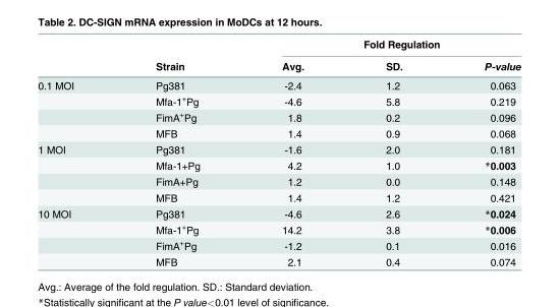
<table><thead><tr><td rowspan="2"></td><td rowspan="2">Strain</td><td colspan="3">Fold Regulation</td></tr><tr><td>Avg.</td><td>SD.</td><td>P-value</td></tr></thead><tbody><tr><td rowspan="4">0.1 MOI</td><td>Pg381</td><td>-2.4</td><td>1.2</td><td>0.063</td></tr><tr><td>Mfa-1<sup>+</sup>Pg</td><td>-4.6</td><td>5.8</td><td>0.219</td></tr><tr><td>FimA<sup>+</sup>Pg</td><td>1.8</td><td>0.2</td><td>0.096</td></tr><tr><td>MFB</td><td>1.4</td><td>0.9</td><td>0.068</td></tr><tr><td rowspan="4">1 MOI</td><td>Pg381</td><td>-1.6</td><td>2.0</td><td>0.181</td></tr><tr><td>Mfa-1+Pg</td><td>4.2</td><td>1.0</td><td>*0.003</td></tr><tr><td>FimA+Pg</td><td>1.2</td><td>0.0</td><td>0.148</td></tr><tr><td>MFB</td><td>1.4</td><td>1.2</td><td>0.421</td></tr><tr><td rowspan="4">10 MOI</td><td>Pg381</td><td>-4.6</td><td>2.6</td><td>*0.024</td></tr><tr><td>Mfa-1<sup>+</sup>Pg</td><td>14.2</td><td>3.8</td><td>*0.006</td></tr><tr><td>FimA<sup>+</sup>Pg</td><td>-1.2</td><td>0.1</td><td>0.016</td></tr><tr><td>MFB</td><td>2.1</td><td>0.4</td><td>0.074</td></tr></tbody></table>